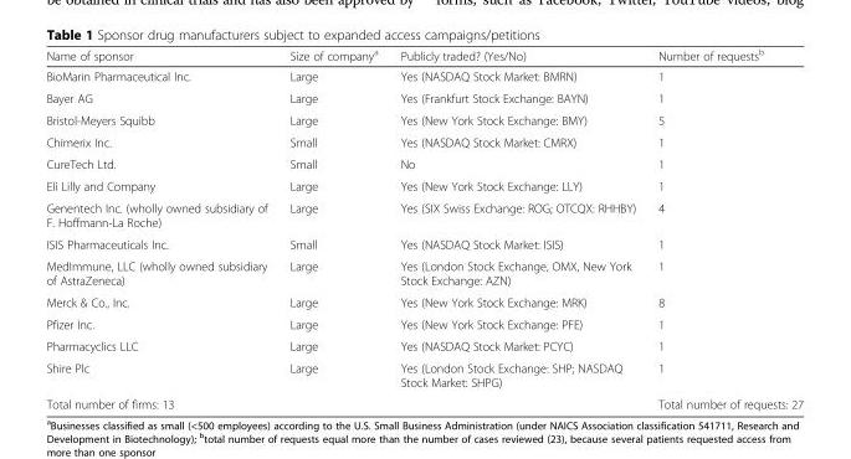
<table><thead><tr><td>Name of sponsor</td><td>Size of company<sup>a</sup></td><td>Publicly traded? (Yes/No)</td><td>Number of requests<sup>b</sup></td></tr></thead><tbody><tr><td>BioMarin Pharmaceutical Inc.</td><td>Large</td><td>Yes (NASDAQ Stock Market: BMRN)</td><td>1</td></tr><tr><td>Bayer AG</td><td>Large</td><td>Yes (Frankfurt Stock Exchange: BAYN)</td><td>1</td></tr><tr><td>Bristol-Meyers Squibb</td><td>Large</td><td>Yes (New York Stock Exchange: BMY)</td><td>5</td></tr><tr><td>Chimerix Inc.</td><td>Small</td><td>Yes (NASDAQ Stock Market: CMRX)</td><td>1</td></tr><tr><td>CureTech Ltd.</td><td>Small</td><td>No</td><td>1</td></tr><tr><td>Eli Lilly and Company</td><td>Large</td><td>Yes (New York Stock Exchange: LLY)</td><td>1</td></tr><tr><td>Genentech Inc. (wholly owned subsidiary of F. Hoffmann-La Roche)</td><td>Large</td><td>Yes (SIX Swiss Exchange: ROG; OTCQX: RHHBY)</td><td>4</td></tr><tr><td>ISIS Pharmaceuticals Inc.</td><td>Small</td><td>Yes (NASDAQ Stock Market: ISIS)</td><td>1</td></tr><tr><td>MedImmune, LLC (wholly owned subsidiary of AstraZeneca)</td><td>Large</td><td>Yes (London Stock Exchange, OMX, New York Stock Exchange: AZN)</td><td>1</td></tr><tr><td>Merck &amp; Co., Inc.</td><td>Large</td><td>Yes (New York Stock Exchange: MRK)</td><td>8</td></tr><tr><td>Pfizer Inc.</td><td>Large</td><td>Yes (New York Stock Exchange: PFE)</td><td>1</td></tr><tr><td>Pharmacyclics LLC</td><td>Large</td><td>Yes (NASDAQ Stock Market: PCYC)</td><td>1</td></tr><tr><td>Shire Plc</td><td>Large</td><td>Yes (London Stock Exchange: SHP; NASDAQ Stock Market: SHPG)</td><td>1</td></tr><tr><td>Total number of firms: 13</td><td colspan="2"></td><td>Total number of requests: 27</td></tr></tbody></table>